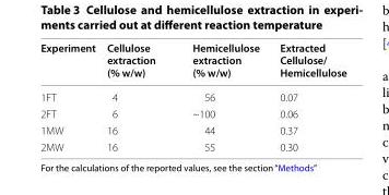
<table><thead><tr><td>Experiment</td><td>Cellulose extraction (% w/w)</td><td>Hemicellulose extraction (% w/w)</td><td>Extracted Cellulose/ Hemicellulose</td></tr></thead><tbody><tr><td>1FT</td><td>4</td><td>56</td><td>0.07</td></tr><tr><td>2FT</td><td>6</td><td>~100</td><td>0.06</td></tr><tr><td>1MW</td><td>16</td><td>44</td><td>0.37</td></tr><tr><td>2MW</td><td>16</td><td>55</td><td>0.30</td></tr></tbody></table>